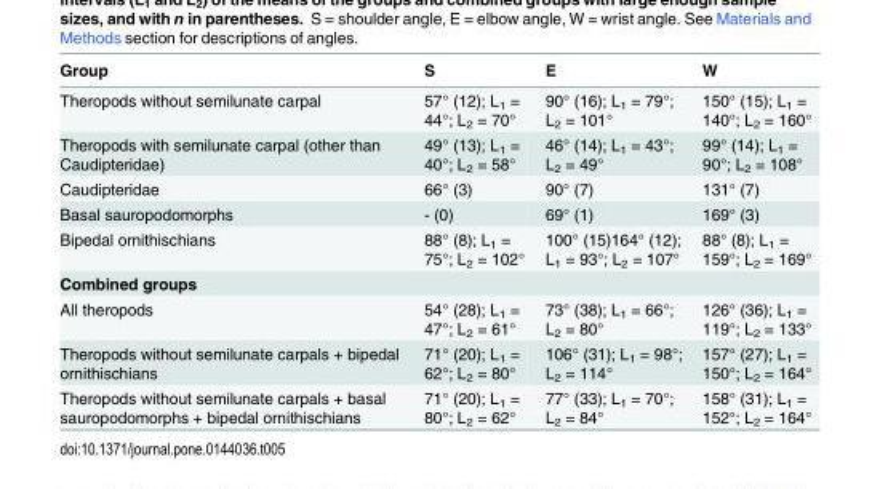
<table><thead><tr><td>Group</td><td>S</td><td>E</td><td>W</td></tr></thead><tbody><tr><td>Theropods without semilunate carpal</td><td>57° (12); L<sub>1</sub> = 44°; L<sub>2</sub> = 70°</td><td>90° (16); L<sub>1</sub> = 79°; L<sub>2</sub> = 101°</td><td>150° (15); L<sub>1</sub> = 140°; L<sub>2</sub> = 160°</td></tr><tr><td>Theropods with semilunate carpal (other than Caudipteridae)</td><td>49° (13); L<sub>1</sub> = 40°; L<sub>2</sub> = 58°</td><td>46° (14); L<sub>1</sub> = 43°; L<sub>2</sub> = 49°</td><td>99° (14); L<sub>1</sub> = 90°; L<sub>2</sub> = 108°</td></tr><tr><td>Caudipteridae</td><td>66° (3)</td><td>90° (7)</td><td>131° (7)</td></tr><tr><td>Basal sauropodomorphs</td><td>- (0)</td><td>69° (1)</td><td>169° (3)</td></tr><tr><td>Bipedal ornithischians</td><td>88° (8); L<sub>1</sub> = 75°; L<sub>2</sub> = 102°</td><td>100° (15)164° (12); L<sub>1</sub> = 93°; L<sub>2</sub> = 107°</td><td>88° (8); L<sub>1</sub> = 159°; L<sub>2</sub> = 169°</td></tr><tr><td colspan="4">Combined groups</td></tr><tr><td>All theropods</td><td>54° (28); L<sub>1</sub> = 47°; L<sub>2</sub> = 61°</td><td>73° (38); L<sub>1</sub> = 66°; L<sub>2</sub> = 80°</td><td>126° (36); L<sub>1</sub> = 119°; L<sub>2</sub> = 133°</td></tr><tr><td>Theropods without semilunate carpals + bipedal ornithischians</td><td>71° (20); L<sub>1</sub> = 62°; L<sub>2</sub> = 80°</td><td>106° (31); L<sub>1</sub> = 98°; L<sub>2</sub> = 114°</td><td>157° (27); L<sub>1</sub> = 150°; L<sub>2</sub> = 164°</td></tr><tr><td>Theropods without semilunate carpals + basal sauropodomorphs + bipedal ornithischians</td><td>71° (20); L<sub>1</sub> = 80°; L<sub>2</sub> = 62°</td><td>77° (33); L<sub>1</sub> = 70°; L<sub>2</sub> = 84°</td><td>158° (31); L<sub>1</sub> = 152°; L<sub>2</sub> = 164°</td></tr></tbody></table>